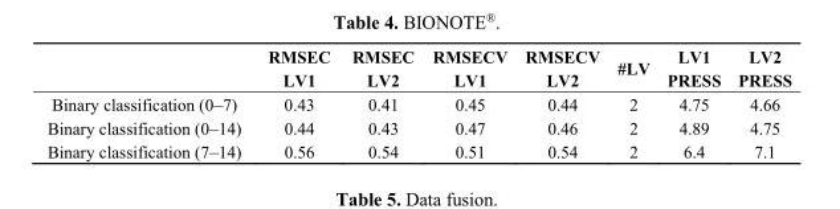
<table><thead><tr><td></td><td>RMSEC LV1</td><td>RMSEC LV2</td><td>RMSECV LV1</td><td>RMSECV LV2</td><td>#LV</td><td>LV1 PRESS</td><td>LV2 PRESS</td></tr></thead><tbody><tr><td>Binary classification (0–7)</td><td>0.43</td><td>0.41</td><td>0.45</td><td>0.44</td><td>2</td><td>4.75</td><td>4.66</td></tr><tr><td>Binary classification (0–14)</td><td>0.44</td><td>0.43</td><td>0.47</td><td>0.46</td><td>2</td><td>4.89</td><td>4.75</td></tr><tr><td>Binary classification (7–14)</td><td>0.56</td><td>0.54</td><td>0.51</td><td>0.54</td><td>2</td><td>6.4</td><td>7.1</td></tr></tbody></table>